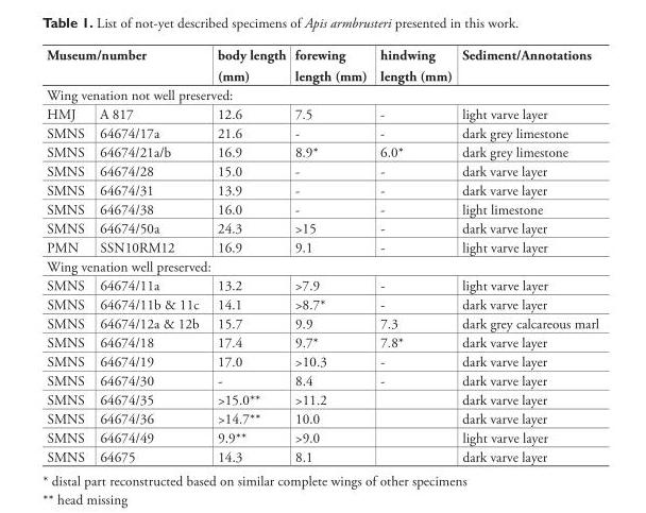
<table><thead><tr><td colspan="2">Museum/number</td><td>body length (mm)</td><td>forewing length (mm)</td><td>hindwing length (mm)</td><td>Sediment/Annotations</td></tr><tr><td colspan="6">Wing venation not well preserved:</td></tr><tr><td>HMJ</td><td>A 817</td><td>12.6</td><td>7.5</td><td>-</td><td>light varve layer</td></tr></thead><tbody><tr><td>SMNS</td><td>64674/17a</td><td>21.6</td><td>-</td><td>-</td><td>dark grey limestone</td></tr><tr><td>SMNS</td><td>64674/21a/b</td><td>16.9</td><td>8.9*</td><td>6.0*</td><td>dark grey limestone</td></tr><tr><td>SMNS</td><td>64674/28</td><td>15.0</td><td>-</td><td>-</td><td>dark varve layer</td></tr><tr><td>SMNS</td><td>64674/31</td><td>13.9</td><td>-</td><td>-</td><td>dark varve layer</td></tr><tr><td>SMNS</td><td>64674/38</td><td>16.0</td><td>-</td><td>-</td><td>light limestone</td></tr><tr><td>SMNS</td><td>64674/50a</td><td>24.3</td><td>&gt;15</td><td>-</td><td>dark varve layer</td></tr><tr><td>PMN</td><td>SSN10RM12</td><td>16.9</td><td>9.1</td><td>-</td><td>light varve layer</td></tr><tr><td colspan="6">Wing venation well preserved:</td></tr><tr><td>SMNS</td><td>64674/11a</td><td>13.2</td><td>&gt;7.9</td><td>-</td><td>light varve layer</td></tr><tr><td>SMNS</td><td>64674/11b &amp; 11c</td><td>14.1</td><td>&gt;8.7*</td><td>-</td><td>dark varve layer</td></tr><tr><td>SMNS</td><td>64674/12a &amp; 12b</td><td>15.7</td><td>9.9</td><td>7.3</td><td>dark grey calcareous marl</td></tr><tr><td>SMNS</td><td>64674/18</td><td>17.4</td><td>9.7*</td><td>7.8*</td><td>dark varve layer</td></tr><tr><td>SMNS</td><td>64674/19</td><td>17.0</td><td>&gt;10.3</td><td>-</td><td>dark varve layer</td></tr><tr><td>SMNS</td><td>64674/30</td><td>-</td><td>8.4</td><td>-</td><td>dark varve layer</td></tr><tr><td>SMNS</td><td>64674/35</td><td>&gt;15.0**</td><td>&gt;11.2</td><td></td><td>dark varve layer</td></tr><tr><td>SMNS</td><td>64674/36</td><td>&gt;14.7**</td><td>10.0</td><td></td><td>dark varve layer</td></tr><tr><td>SMNS</td><td>64674/49</td><td>9.9**</td><td>&gt;9.0</td><td></td><td>light varve layer</td></tr><tr><td>SMNS</td><td>64675</td><td>14.3</td><td>8.1</td><td></td><td>dark varve layer</td></tr></tbody></table>